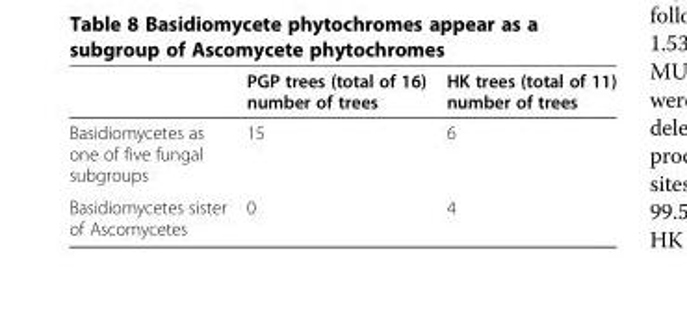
<table><thead><tr><td></td><td>PGP trees (total of 16) number of trees</td><td>HK trees (total of 11) number of trees</td></tr></thead><tbody><tr><td>Basidiomycetes as one of five fungal subgroups</td><td>15</td><td>6</td></tr><tr><td>Basidiomycetes sister of Ascomycetes</td><td>0</td><td>4</td></tr></tbody></table>